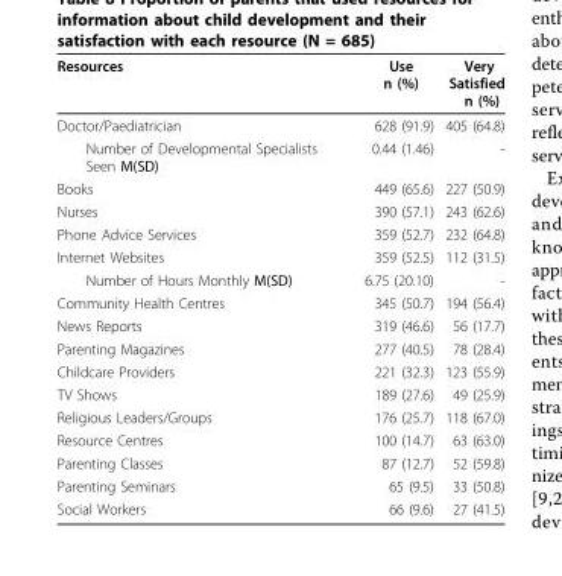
<table><thead><tr><td>Resources</td><td>Use n (%)</td><td>Very Satisfied n (%)</td></tr></thead><tbody><tr><td>Doctor/Paediatrician</td><td>628 (91.9)</td><td>405 (64.8)</td></tr><tr><td>Number of Developmental Specialists Seen M(SD)</td><td>0.44 (1.46)</td><td>-</td></tr><tr><td>Books</td><td>449 (65.6)</td><td>227 (50.9)</td></tr><tr><td>Nurses</td><td>390 (57.1)</td><td>243 (62.6)</td></tr><tr><td>Phone Advice Services</td><td>359 (52.7)</td><td>232 (64.8)</td></tr><tr><td>Internet Websites</td><td>359 (52.5)</td><td>112 (31.5)</td></tr><tr><td>Number of Hours Monthly M(SD)</td><td>6.75 (20.10)</td><td>-</td></tr><tr><td>Community Health Centres</td><td>345 (50.7)</td><td>194 (56.4)</td></tr><tr><td>News Reports</td><td>319 (46.6)</td><td>56 (17.7)</td></tr><tr><td>Parenting Magazines</td><td>277 (40.5)</td><td>78 (28.4)</td></tr><tr><td>Childcare Providers</td><td>221 (32.3)</td><td>123 (55.9)</td></tr><tr><td>TV Shows</td><td>189 (27.6)</td><td>49 (25.9)</td></tr><tr><td>Religious Leaders/Groups</td><td>176 (25.7)</td><td>118 (67.0)</td></tr><tr><td>Resource Centres</td><td>100 (14.7)</td><td>63 (63.0)</td></tr><tr><td>Parenting Classes</td><td>87 (12.7)</td><td>52 (59.8)</td></tr><tr><td>Parenting Seminars</td><td>65 (9.5)</td><td>33 (50.8)</td></tr><tr><td>Social Workers</td><td>66 (9.6)</td><td>27 (41.5)</td></tr></tbody></table>